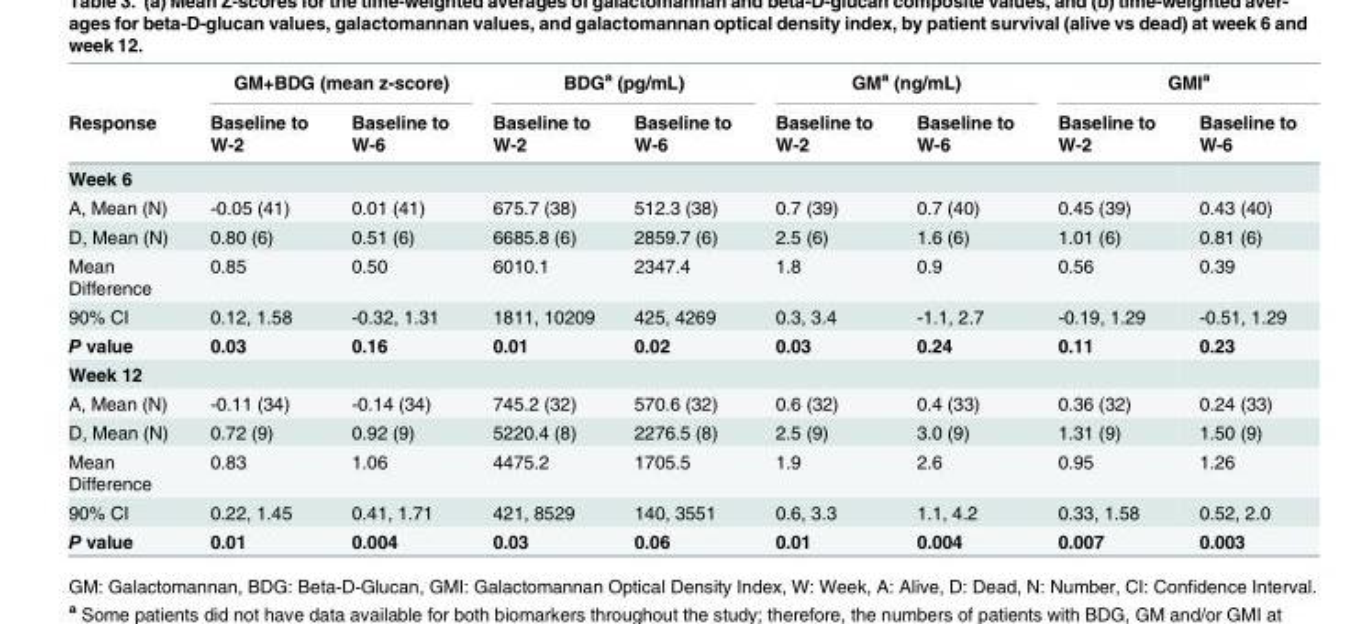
<table><thead><tr><td rowspan="2">Response</td><td colspan="2">GM+BDG (mean z-score)</td><td colspan="2">BDG<sup>a</sup> (pg/mL)</td><td colspan="2">GM<sup>a</sup> (ng/mL)</td><td colspan="2">GMI<sup>a</sup></td></tr><tr><td>Baseline to W-2</td><td>Baseline to W-6</td><td>Baseline to W-2</td><td>Baseline to W-6</td><td>Baseline to W-2</td><td>Baseline to W-6</td><td>Baseline to W-2</td><td>Baseline to W-6</td></tr></thead><tbody><tr><td colspan="9">Week 6</td></tr><tr><td>A, Mean (N)</td><td>-0.05 (41)</td><td>0.01 (41)</td><td>675.7 (38)</td><td>512.3 (38)</td><td>0.7 (39)</td><td>0.7 (40)</td><td>0.45 (39)</td><td>0.43 (40)</td></tr><tr><td>D, Mean (N)</td><td>0.80 (6)</td><td>0.51 (6)</td><td>6685.8 (6)</td><td>2859.7 (6)</td><td>2.5 (6)</td><td>1.6 (6)</td><td>1.01 (6)</td><td>0.81 (6)</td></tr><tr><td>Mean Difference</td><td>0.85</td><td>0.50</td><td>6010.1</td><td>2347.4</td><td>1.8</td><td>0.9</td><td>0.56</td><td>0.39</td></tr><tr><td>90% CI</td><td>0.12, 1.58</td><td>-0.32, 1.31</td><td>1811, 10209</td><td>425, 4269</td><td>0.3, 3.4</td><td>-1.1, 2.7</td><td>-0.19, 1.29</td><td>-0.51, 1.29</td></tr><tr><td>P value</td><td>0.03</td><td>0.16</td><td>0.01</td><td>0.02</td><td>0.03</td><td>0.24</td><td>0.11</td><td>0.23</td></tr><tr><td colspan="9">Week 12</td></tr><tr><td>A, Mean (N)</td><td>-0.11 (34)</td><td>-0.14 (34)</td><td>745.2 (32)</td><td>570.6 (32)</td><td>0.6 (32)</td><td>0.4 (33)</td><td>0.36 (32)</td><td>0.24 (33)</td></tr><tr><td>D, Mean (N)</td><td>0.72 (9)</td><td>0.92 (9)</td><td>5220.4 (8)</td><td>2276.5 (8)</td><td>2.5 (9)</td><td>3.0 (9)</td><td>1.31 (9)</td><td>1.50 (9)</td></tr><tr><td>Mean Difference</td><td>0.83</td><td>1.06</td><td>4475.2</td><td>1705.5</td><td>1.9</td><td>2.6</td><td>0.95</td><td>1.26</td></tr><tr><td>90% CI</td><td>0.22, 1.45</td><td>0.41, 1.71</td><td>421, 8529</td><td>140, 3551</td><td>0.6, 3.3</td><td>1.1, 4.2</td><td>0.33, 1.58</td><td>0.52, 2.0</td></tr><tr><td>P value</td><td>0.01</td><td>0.004</td><td>0.03</td><td>0.06</td><td>0.01</td><td>0.004</td><td>0.007</td><td>0.003</td></tr></tbody></table>